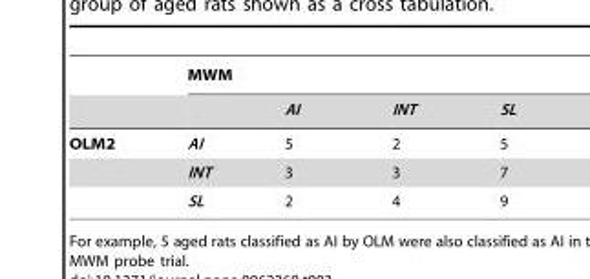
<table><thead><tr><td rowspan="2"></td><td colspan="4">MWM</td></tr><tr><td></td><td>AI</td><td>INT</td><td>SL</td></tr></thead><tbody><tr><td rowspan="3">OLM2</td><td>AI</td><td>5</td><td>2</td><td>5</td></tr><tr><td>INT</td><td>3</td><td>3</td><td>7</td></tr><tr><td>SL</td><td>2</td><td>4</td><td>9</td></tr></tbody></table>